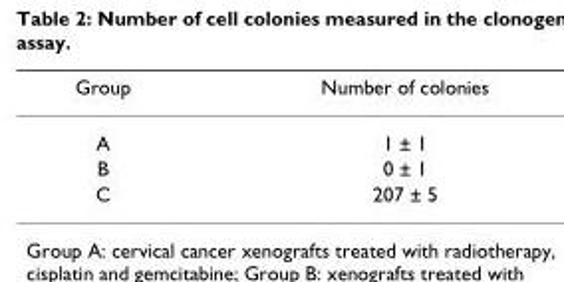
<table><thead><tr><td>Group</td><td>Number of colonies</td></tr></thead><tbody><tr><td>A</td><td>1 ± 1</td></tr><tr><td>B</td><td>0 ± 1</td></tr><tr><td>C</td><td>207 ± 5</td></tr></tbody></table>